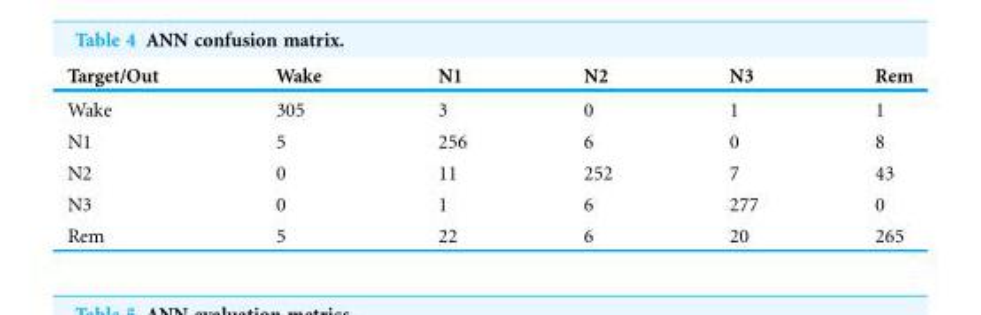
<table><thead><tr><td>Target/Out</td><td>Wake</td><td>N1</td><td>N2</td><td>N3</td><td>Rem</td></tr></thead><tbody><tr><td>Wake</td><td>305</td><td>3</td><td>0</td><td>1</td><td>1</td></tr><tr><td>N1</td><td>5</td><td>256</td><td>6</td><td>0</td><td>8</td></tr><tr><td>N2</td><td>0</td><td>11</td><td>252</td><td>7</td><td>43</td></tr><tr><td>N3</td><td>0</td><td>1</td><td>6</td><td>277</td><td>0</td></tr><tr><td>Rem</td><td>5</td><td>22</td><td>6</td><td>20</td><td>265</td></tr></tbody></table>